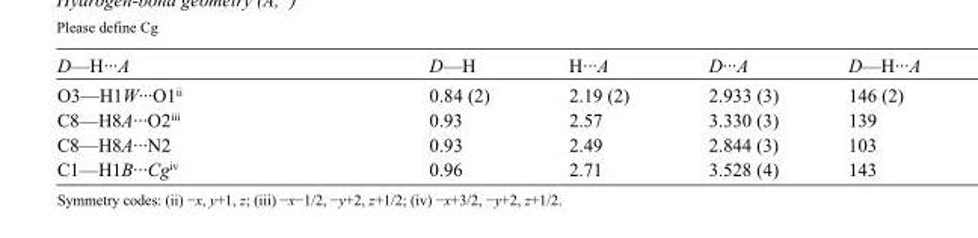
<table><tbody><tr><td>D—H···A</td><td>D—H</td><td>H···A</td><td>D···A</td><td>D—H···A</td></tr><tr><td>O3—H1W···O1<sup>ii</sup></td><td>0.84 (2)</td><td>2.19 (2)</td><td>2.933 (3)</td><td>146 (2)</td></tr><tr><td>C8—H8A···O2<sup>iii</sup></td><td>0.93</td><td>2.57</td><td>3.330 (3)</td><td>139</td></tr><tr><td>C8—H8A···N2</td><td>0.93</td><td>2.49</td><td>2.844 (3)</td><td>103</td></tr><tr><td>C1—H1B···Cg<sup>iv</sup></td><td>0.96</td><td>2.71</td><td>3.528 (4)</td><td>143</td></tr></tbody></table>